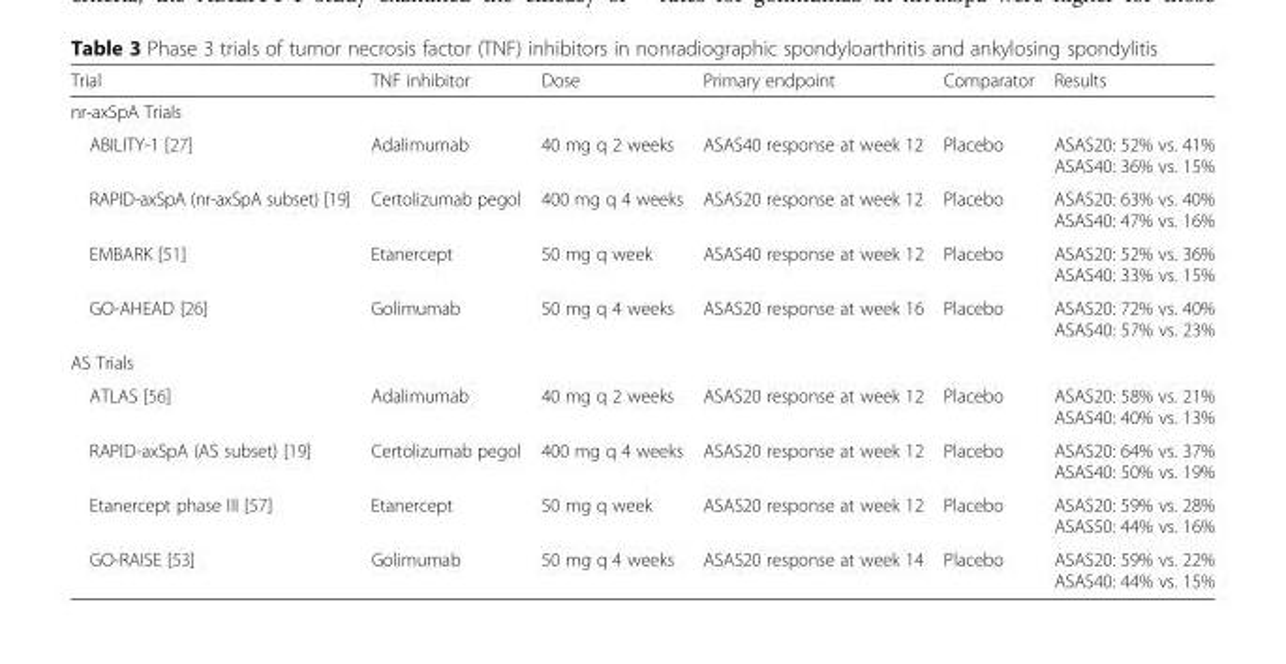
<table><thead><tr><td>Trial</td><td>TNF inhibitor</td><td>Dose</td><td>Primary endpoint</td><td>Comparator</td><td>Results</td></tr></thead><tbody><tr><td colspan="6">nr-axSpA Trials</td></tr><tr><td>ABILITY-1 [27]</td><td>Adalimumab</td><td>40 mg q 2 weeks</td><td>ASAS40 response at week 12</td><td>Placebo</td><td>ASAS20: 52% vs. 41% ASAS40: 36% vs. 15%</td></tr><tr><td>RAPID-axSpA (nr-axSpA subset) [19]</td><td>Certolizumab pegol</td><td>400 mg q 4 weeks</td><td>ASAS20 response at week 12</td><td>Placebo</td><td>ASAS20: 63% vs. 40% ASAS40: 47% vs. 16%</td></tr><tr><td>EMBARK [51]</td><td>Etanercept</td><td>50 mg q week</td><td>ASAS40 response at week 12</td><td>Placebo</td><td>ASAS20: 52% vs. 36% ASAS40: 33% vs. 15%</td></tr><tr><td>GO-AHEAD [26]</td><td>Golimumab</td><td>50 mg q 4 weeks</td><td>ASAS20 response at week 16</td><td>Placebo</td><td>ASAS20: 72% vs. 40% ASAS40: 57% vs. 23%</td></tr><tr><td colspan="6">AS Trials</td></tr><tr><td>ATLAS [56]</td><td>Adalimumab</td><td>40 mg q 2 weeks</td><td>ASAS20 response at week 12</td><td>Placebo</td><td>ASAS20: 58% vs. 21% ASAS40: 40% vs. 13%</td></tr><tr><td>RAPID-axSpA (AS subset) [19]</td><td>Certolizumab pegol</td><td>400 mg q 4 weeks</td><td>ASAS20 response at week 12</td><td>Placebo</td><td>ASAS20: 64% vs. 37% ASAS40: 50% vs. 19%</td></tr><tr><td>Etanercept phase III [57]</td><td>Etanercept</td><td>50 mg q week</td><td>ASAS20 response at week 12</td><td>Placebo</td><td>ASAS20: 59% vs. 28% ASAS50: 44% vs. 16%</td></tr><tr><td>GO-RAISE [53]</td><td>Golimumab</td><td>50 mg q 4 weeks</td><td>ASAS20 response at week 14</td><td>Placebo</td><td>ASAS20: 59% vs. 22% ASAS40: 44% vs. 15%</td></tr></tbody></table>